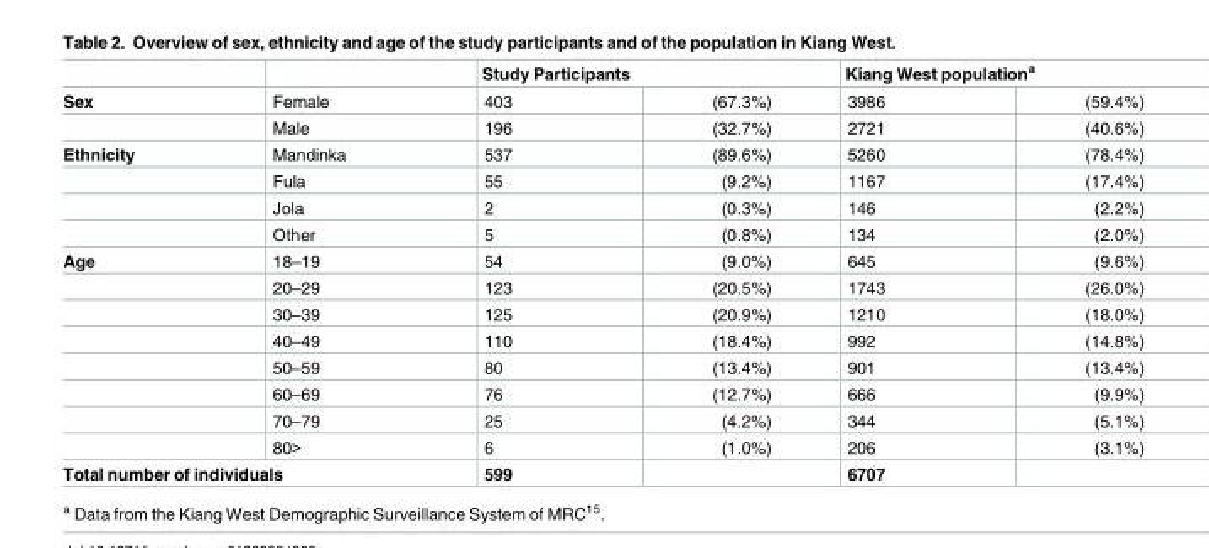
<table><thead><tr><td rowspan="2">Sex</td><td rowspan="2">Female</td><td colspan="2">Study Participants</td><td colspan="2">Kiang West population<sup>a</sup></td></tr><tr><td>403</td><td>(67.3%)</td><td>3986</td><td>(59.4%)</td></tr></thead><tbody><tr><td></td><td>Male</td><td>196</td><td>(32.7%)</td><td>2721</td><td>(40.6%)</td></tr><tr><td rowspan="4">Ethnicity</td><td>Mandinka</td><td>537</td><td>(89.6%)</td><td>5260</td><td>(78.4%)</td></tr><tr><td>Fula</td><td>55</td><td>(9.2%)</td><td>1167</td><td>(17.4%)</td></tr><tr><td>Jola</td><td>2</td><td>(0.3%)</td><td>146</td><td>(2.2%)</td></tr><tr><td>Other</td><td>5</td><td>(0.8%)</td><td>134</td><td>(2.0%)</td></tr><tr><td rowspan="8">Age</td><td>18–19</td><td>54</td><td>(9.0%)</td><td>645</td><td>(9.6%)</td></tr><tr><td>20–29</td><td>123</td><td>(20.5%)</td><td>1743</td><td>(26.0%)</td></tr><tr><td>30–39</td><td>125</td><td>(20.9%)</td><td>1210</td><td>(18.0%)</td></tr><tr><td>40–49</td><td>110</td><td>(18.4%)</td><td>992</td><td>(14.8%)</td></tr><tr><td>50–59</td><td>80</td><td>(13.4%)</td><td>901</td><td>(13.4%)</td></tr><tr><td>60–69</td><td>76</td><td>(12.7%)</td><td>666</td><td>(9.9%)</td></tr><tr><td>70–79</td><td>25</td><td>(4.2%)</td><td>344</td><td>(5.1%)</td></tr><tr><td>80&gt;</td><td>6</td><td>(1.0%)</td><td>206</td><td>(3.1%)</td></tr><tr><td colspan="2">Total number of individuals</td><td>599</td><td></td><td>6707</td><td></td></tr></tbody></table>